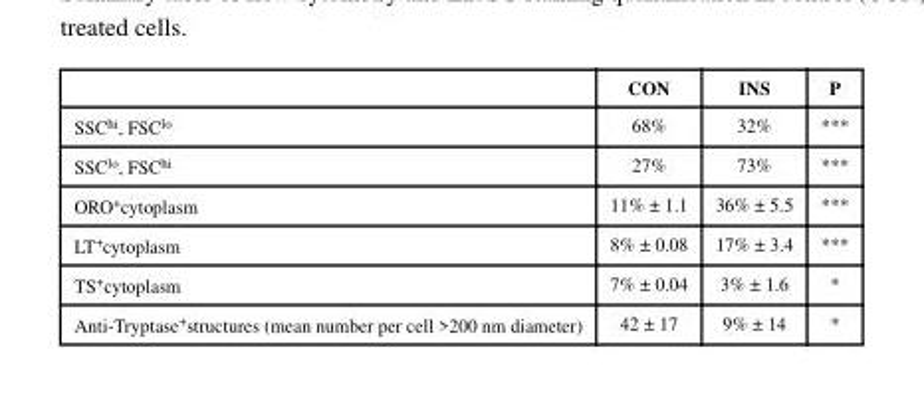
<table><thead><tr><td></td><td>CON</td><td>INS</td><td>P</td></tr></thead><tbody><tr><td>SSC<sup>hi</sup>, FSC<sup>lo</sup></td><td>68%</td><td>32%</td><td>***</td></tr><tr><td>SSC<sup>lo</sup>, FSC<sup>hi</sup></td><td>27%</td><td>73%</td><td>***</td></tr><tr><td>ORO<sup>+</sup>cytoplasm</td><td>11% ± 1.1</td><td>36% ± 5.5</td><td>***</td></tr><tr><td>LT<sup>+</sup>cytoplasm</td><td>8% ± 0.08</td><td>17% ± 3.4</td><td>***</td></tr><tr><td>TS<sup>+</sup>cytoplasm</td><td>7% ± 0.04</td><td>3% ± 1.6</td><td>*</td></tr><tr><td>Anti-Tryptase<sup>+</sup>structures (mean number per cell &gt;200 nm diameter)</td><td>42 ± 17</td><td>9% ± 14</td><td>*</td></tr></tbody></table>